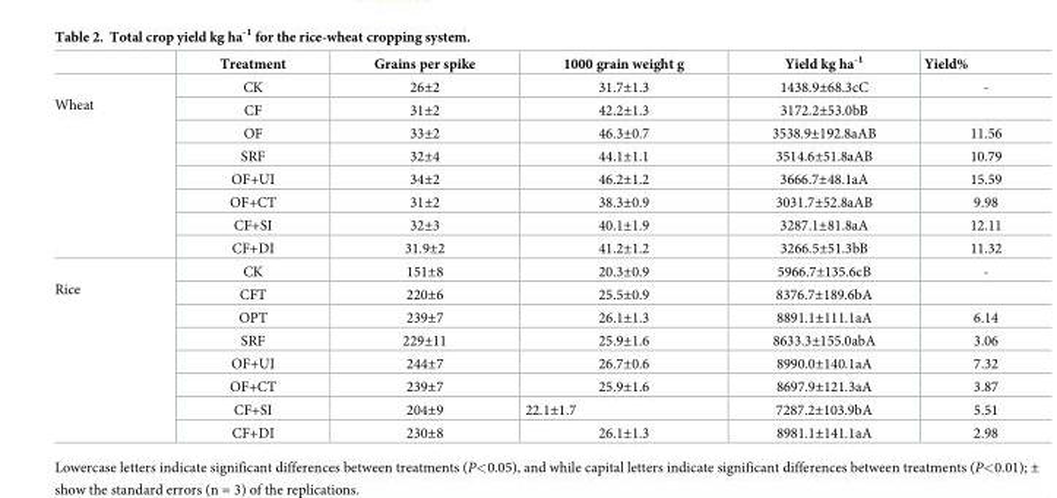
<table><thead><tr><td></td><td>Treatment</td><td>Grains per spike</td><td>1000 grain weight g</td><td>Yield kg ha<sup>-1</sup></td><td>Yield%</td></tr></thead><tbody><tr><td rowspan="8">Wheat</td><td>CK</td><td>26±2</td><td>31.7±1.3</td><td>1438.9±68.3cC</td><td>-</td></tr><tr><td>CF</td><td>31±2</td><td>42.2±1.3</td><td>3172.2±53.0bB</td><td></td></tr><tr><td>OF</td><td>33±2</td><td>46.3±0.7</td><td>3538.9±192.8aAB</td><td>11.56</td></tr><tr><td>SRF</td><td>32±4</td><td>44.1±1.1</td><td>3514.6±51.8aAB</td><td>10.79</td></tr><tr><td>OF+UI</td><td>34±2</td><td>46.2±1.2</td><td>3666.7±48.1aA</td><td>15.59</td></tr><tr><td>OF+CT</td><td>31±2</td><td>38.3±0.9</td><td>3031.7±52.8aAB</td><td>9.98</td></tr><tr><td>CF+SI</td><td>32±3</td><td>40.1±1.9</td><td>3287.1±81.8aA</td><td>12.11</td></tr><tr><td>CF+DI</td><td>31.9±2</td><td>41.2±1.2</td><td>3266.5±51.3bB</td><td>11.32</td></tr><tr><td rowspan="8">Rice</td><td>CK</td><td>151±8</td><td>20.3±0.9</td><td>5966.7±135.6cB</td><td>-</td></tr><tr><td>CFT</td><td>220±6</td><td>25.5±0.9</td><td>8376.7±189.6bA</td><td></td></tr><tr><td>OPT</td><td>239±7</td><td>26.1±1.3</td><td>8891.1±111.1aA</td><td>6.14</td></tr><tr><td>SRF</td><td>229±11</td><td>25.9±1.6</td><td>8633.3±155.0abA</td><td>3.06</td></tr><tr><td>OF+UI</td><td>244±7</td><td>26.7±0.6</td><td>8990.0±140.1aA</td><td>7.32</td></tr><tr><td>OF+CT</td><td>239±7</td><td>25.9±1.6</td><td>8697.9±121.3aA</td><td>3.87</td></tr><tr><td>CF+SI</td><td>204±9</td><td>22.1±1.7</td><td>7287.2±103.9bA</td><td>5.51</td></tr><tr><td>CF+DI</td><td>230±8</td><td>26.1±1.3</td><td>8981.1±141.1aA</td><td>2.98</td></tr></tbody></table>